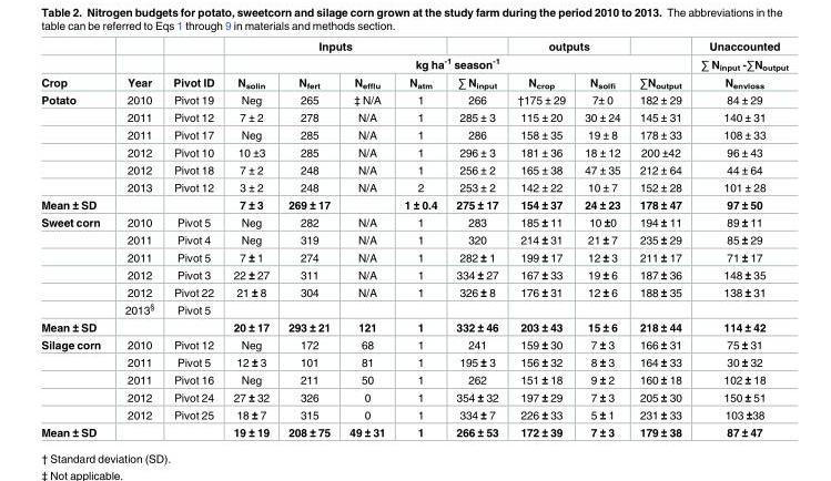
<table><thead><tr><td rowspan="3">Crop</td><td rowspan="3">Year</td><td rowspan="3">Pivot ID</td><td colspan="4">Inputs</td><td></td><td colspan="2">outputs</td><td></td><td rowspan="3">Unaccounted ∑ N<sub>input</sub> -∑N<sub>output</sub> N<sub>envloss</sub></td></tr><tr><td colspan="8">kg ha<sup>-1</sup> season<sup>-1</sup></td></tr><tr><td>N<sub>solin</sub></td><td>N<sub>fert</sub></td><td>N<sub>efflu</sub></td><td>N<sub>atm</sub></td><td>∑ N<sub>input</sub></td><td>N<sub>crop</sub></td><td>N<sub>solfi</sub></td><td>∑N<sub>output</sub></td></tr></thead><tbody><tr><td rowspan="6">Potato</td><td>2010</td><td>Pivot 19</td><td>Neg</td><td>265</td><td>‡ N/A</td><td>1</td><td>266</td><td>†175 ± 29</td><td>7± 0</td><td>182 ± 29</td><td>84 ± 29</td></tr><tr><td>2011</td><td>Pivot 12</td><td>7 ± 2</td><td>278</td><td>N/A</td><td>1</td><td>285 ± 3</td><td>115 ± 20</td><td>30 ± 24</td><td>145 ± 31</td><td>140 ± 31</td></tr><tr><td>2011</td><td>Pivot 17</td><td>Neg</td><td>285</td><td>N/A</td><td>1</td><td>286</td><td>158 ± 35</td><td>19 ± 8</td><td>178 ± 33</td><td>108 ± 33</td></tr><tr><td>2012</td><td>Pivot 10</td><td>10 ±3</td><td>285</td><td>N/A</td><td>1</td><td>296 ± 3</td><td>181 ± 36</td><td>18 ± 12</td><td>200 ±42</td><td>96 ± 43</td></tr><tr><td>2012</td><td>Pivot 18</td><td>7 ± 2</td><td>248</td><td>N/A</td><td>1</td><td>256 ± 2</td><td>165 ± 38</td><td>47 ± 35</td><td>212 ± 64</td><td>44 ± 64</td></tr><tr><td>2013</td><td>Pivot 12</td><td>3 ± 2</td><td>248</td><td>N/A</td><td>2</td><td>253 ± 2</td><td>142 ± 22</td><td>10 ± 7</td><td>152 ± 28</td><td>101 ± 28</td></tr><tr><td>Mean ± SD</td><td></td><td></td><td>7 ± 3</td><td>269 ± 17</td><td></td><td>1 ± 0.4</td><td>275 ± 17</td><td>154 ± 37</td><td>24 ± 23</td><td>178 ± 47</td><td>97 ± 50</td></tr><tr><td rowspan="6">Sweet corn</td><td>2010</td><td>Pivot 5</td><td>Neg</td><td>282</td><td>N/A</td><td>1</td><td>283</td><td>185 ± 11</td><td>10 ±0</td><td>194 ± 11</td><td>89 ± 11</td></tr><tr><td>2011</td><td>Pivot 4</td><td>Neg</td><td>319</td><td>N/A</td><td>1</td><td>320</td><td>214 ± 31</td><td>21 ± 7</td><td>235 ± 29</td><td>85 ± 29</td></tr><tr><td>2011</td><td>Pivot 5</td><td>7 ± 1</td><td>274</td><td>N/A</td><td>1</td><td>282 ± 1</td><td>199 ± 17</td><td>12 ± 3</td><td>211 ± 17</td><td>71 ± 17</td></tr><tr><td>2012</td><td>Pivot 3</td><td>22 ± 27</td><td>311</td><td>N/A</td><td>1</td><td>334 ± 27</td><td>167 ± 33</td><td>19 ± 6</td><td>187 ± 36</td><td>148 ± 35</td></tr><tr><td>2012</td><td>Pivot 22</td><td>21 ± 8</td><td>304</td><td>N/A</td><td>1</td><td>326 ± 8</td><td>176 ± 31</td><td>12 ± 6</td><td>188 ± 35</td><td>138 ± 31</td></tr><tr><td>2013<sup>§</sup></td><td>Pivot 5</td><td></td><td></td><td></td><td></td><td></td><td></td><td></td><td></td><td></td></tr><tr><td>Mean ± SD</td><td></td><td></td><td>20 ± 17</td><td>293 ± 21</td><td>121</td><td>1</td><td>332 ± 46</td><td>203 ± 43</td><td>15 ± 6</td><td>218 ± 44</td><td>114 ± 42</td></tr><tr><td rowspan="5">Silage corn</td><td>2010</td><td>Pivot 12</td><td>Neg</td><td>172</td><td>68</td><td>1</td><td>241</td><td>159 ± 30</td><td>7 ± 3</td><td>166 ± 31</td><td>75 ± 31</td></tr><tr><td>2011</td><td>Pivot 5</td><td>12 ± 3</td><td>101</td><td>81</td><td>1</td><td>195 ± 3</td><td>156 ± 32</td><td>8 ± 3</td><td>164 ± 33</td><td>30 ± 32</td></tr><tr><td>2011</td><td>Pivot 16</td><td>Neg</td><td>211</td><td>50</td><td>1</td><td>262</td><td>151 ± 18</td><td>9 ± 2</td><td>160 ± 18</td><td>102 ± 18</td></tr><tr><td>2012</td><td>Pivot 24</td><td>27 ± 32</td><td>326</td><td>0</td><td>1</td><td>354 ± 32</td><td>197 ± 29</td><td>7 ± 3</td><td>205 ± 30</td><td>150 ± 51</td></tr><tr><td>2012</td><td>Pivot 25</td><td>18 ± 7</td><td>315</td><td>0</td><td>1</td><td>334 ± 7</td><td>226 ± 33</td><td>5 ± 1</td><td>231 ± 33</td><td>103 ±38</td></tr><tr><td>Mean ± SD</td><td></td><td></td><td>19 ± 19</td><td>208 ± 75</td><td>49 ± 31</td><td>1</td><td>266 ± 53</td><td>172 ± 39</td><td>7 ± 3</td><td>179 ± 38</td><td>87 ± 47</td></tr></tbody></table>